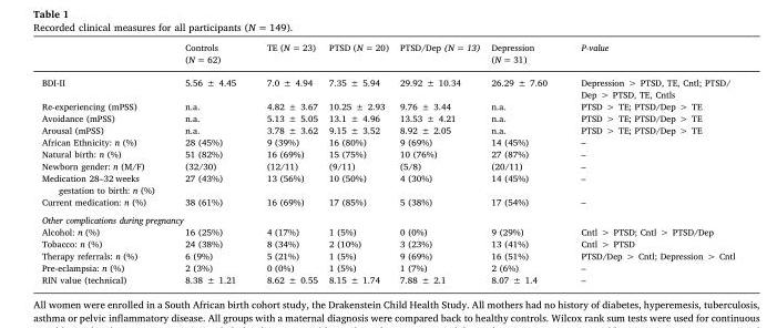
<table><thead><tr><td></td><td>Controls (N = 62)</td><td>TE (N = 23)</td><td>PTSD (N = 20)</td><td>PTSD/Dep (N = 13)</td><td>Depression (N = 31)</td><td>P-value</td></tr></thead><tbody><tr><td>BDI-II</td><td>5.56 ± 4.45</td><td>7.0 ± 4.94</td><td>7.35 ± 5.94</td><td>29.92 ± 10.34</td><td>26.29 ± 7.60</td><td>Depression &gt; PTSD, TE, Cntl; PTSD/ Dep &gt; PTSD, TE, Cntls</td></tr><tr><td>Re-experiencing (mPSS)</td><td>n.a.</td><td>4.82 ± 3.67</td><td>10.25 ± 2.93</td><td>9.76 ± 3.44</td><td>n.a.</td><td>PTSD &gt; TE; PTSD/Dep &gt; TE</td></tr><tr><td>Avoidance (mPSS)</td><td>n.a.</td><td>5.13 ± 5.05</td><td>13.1 ± 4.96</td><td>13.53 ± 4.21</td><td>n.a.</td><td>PTSD &gt; TE; PTSD/Dep &gt; TE</td></tr><tr><td>Arousal (mPSS)</td><td>n.a.</td><td>3.78 ± 3.62</td><td>9.15 ± 3.52</td><td>8.92 ± 2.05</td><td>n.a.</td><td>PTSD &gt; TE; PTSD/Dep &gt; TE</td></tr><tr><td>African Ethnicity: n (%)</td><td>28 (45%)</td><td>9 (39%)</td><td>16 (80%)</td><td>9 (69%)</td><td>14 (45%)</td><td>–</td></tr><tr><td>Natural birth: n (%)</td><td>51 (82%)</td><td>16 (69%)</td><td>15 (75%)</td><td>10 (76%)</td><td>27 (87%)</td><td>–</td></tr><tr><td>Newborn gender: n (M/F)</td><td>(32/30)</td><td>(12/11)</td><td>(9/11)</td><td>(5/8)</td><td>(20/11)</td><td>–</td></tr><tr><td>Medication 28–32 weeks gestation to birth: n (%)</td><td>27 (43%)</td><td>13 (56%)</td><td>10 (50%)</td><td>4 (30%)</td><td>14 (45%)</td><td>–</td></tr><tr><td>Current medication: n (%)</td><td>38 (61%)</td><td>16 (69%)</td><td>17 (85%)</td><td>5 (38%)</td><td>17 (54%)</td><td>–</td></tr><tr><td colspan="7">Other complications during pregnancy</td></tr><tr><td>Alcohol: n (%)</td><td>16 (25%)</td><td>4 (17%)</td><td>1 (5%)</td><td>0 (0%)</td><td>9 (29%)</td><td>Cntl &gt; PTSD; Cntl &gt; PTSD/Dep</td></tr><tr><td>Tobacco: n (%)</td><td>24 (38%)</td><td>8 (34%)</td><td>2 (10%)</td><td>3 (23%)</td><td>13 (41%)</td><td>Cntl &gt; PTSD</td></tr><tr><td>Therapy referrals: n (%)</td><td>6 (9%)</td><td>5 (21%)</td><td>1 (5%)</td><td>9 (69%)</td><td>16 (51%)</td><td>PTSD/Dep &gt; Cntl; Depression &gt; Cntl</td></tr><tr><td>Pre-eclampsia: n (%)</td><td>2 (3%)</td><td>0 (0%)</td><td>1 (5%)</td><td>1 (7%)</td><td>2 (6%)</td><td>–</td></tr><tr><td>RIN value (technical)</td><td>8.38 ± 1.21</td><td>8.62 ± 0.55</td><td>8.15 ± 1.74</td><td>7.88 ± 2.1</td><td>8.07 ± 1.4</td><td>–</td></tr></tbody></table>